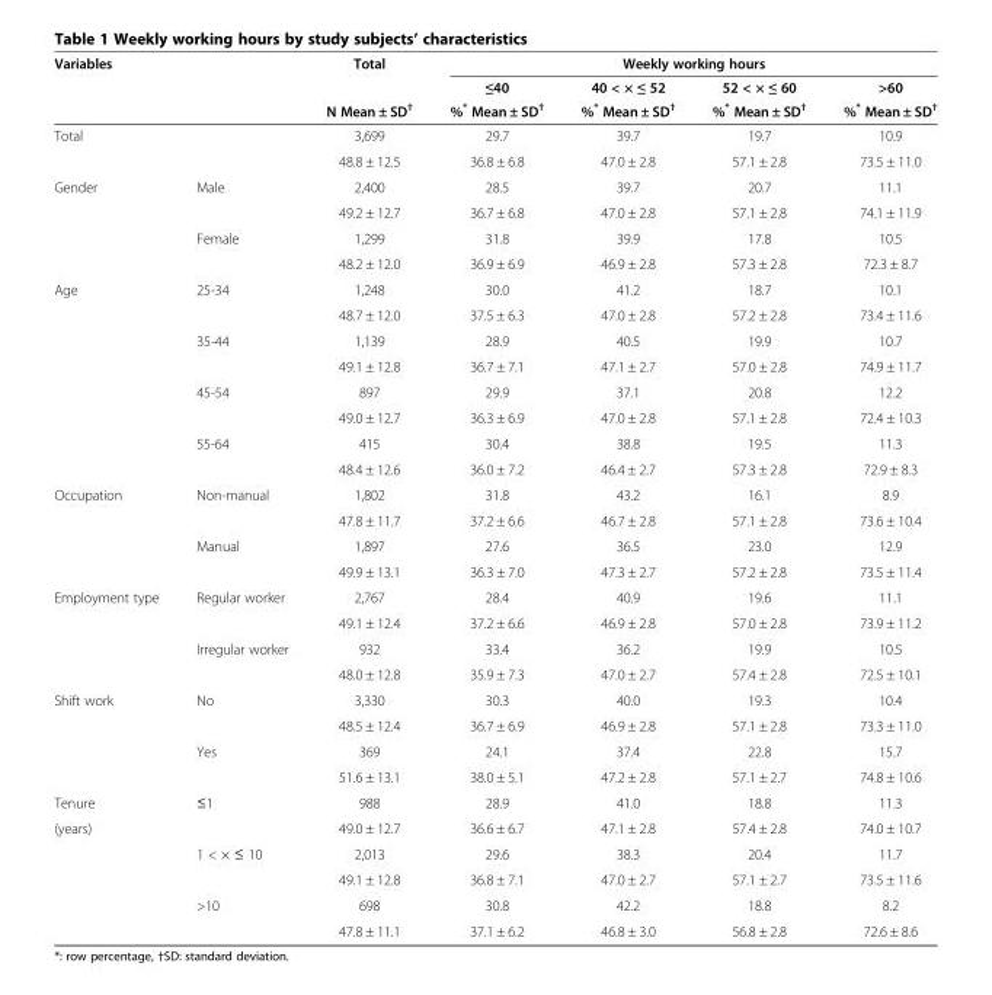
<table><thead><tr><td rowspan="3">Variables</td><td rowspan="3"></td><td rowspan="3">Total N Mean ± SD†</td><td colspan="4">Weekly working hours</td></tr><tr><td rowspan="2">≤40 %* Mean ± SD<sup>†</sup></td><td rowspan="2">40 &lt; × ≤ 52 %* Mean ± SD<sup>†</sup></td><td rowspan="2">52 &lt; × ≤ 60 %* Mean ± SD<sup>†</sup></td><td rowspan="2">&gt;60 %* Mean ± SD<sup>†</sup></td></tr><tr></tr></thead><tbody><tr><td rowspan="2">Total</td><td></td><td>3,699</td><td>29.7</td><td>39.7</td><td>19.7</td><td>10.9</td></tr><tr><td></td><td>48.8 ± 12.5</td><td>36.8 ± 6.8</td><td>47.0 ± 2.8</td><td>57.1 ± 2.8</td><td>73.5 ± 11.0</td></tr><tr><td rowspan="4">Gender</td><td>Male</td><td>2,400</td><td>28.5</td><td>39.7</td><td>20.7</td><td>11.1</td></tr><tr><td></td><td>49.2 ± 12.7</td><td>36.7 ± 6.8</td><td>47.0 ± 2.8</td><td>57.1 ± 2.8</td><td>74.1 ± 11.9</td></tr><tr><td>Female</td><td>1,299</td><td>31.8</td><td>39.9</td><td>17.8</td><td>10.5</td></tr><tr><td></td><td>48.2 ± 12.0</td><td>36.9 ± 6.9</td><td>46.9 ± 2.8</td><td>57.3 ± 2.8</td><td>72.3 ± 8.7</td></tr><tr><td rowspan="8">Age</td><td>25-34</td><td>1,248</td><td>30.0</td><td>41.2</td><td>18.7</td><td>10.1</td></tr><tr><td></td><td>48.7 ± 12.0</td><td>37.5 ± 6.3</td><td>47.0 ± 2.8</td><td>57.2 ± 2.8</td><td>73.4 ± 11.6</td></tr><tr><td>35-44</td><td>1,139</td><td>28.9</td><td>40.5</td><td>19.9</td><td>10.7</td></tr><tr><td></td><td>49.1 ± 12.8</td><td>36.7 ± 7.1</td><td>47.1 ± 2.7</td><td>57.0 ± 2.8</td><td>74.9 ± 11.7</td></tr><tr><td>45-54</td><td>897</td><td>29.9</td><td>37.1</td><td>20.8</td><td>12.2</td></tr><tr><td></td><td>49.0 ± 12.7</td><td>36.3 ± 6.9</td><td>47.0 ± 2.8</td><td>57.1 ± 2.8</td><td>72.4 ± 10.3</td></tr><tr><td>55-64</td><td>415</td><td>30.4</td><td>38.8</td><td>19.5</td><td>11.3</td></tr><tr><td></td><td>48.4 ± 12.6</td><td>36.0 ± 7.2</td><td>46.4 ± 2.7</td><td>57.3 ± 2.8</td><td>72.9 ± 8.3</td></tr><tr><td rowspan="4">Occupation</td><td>Non-manual</td><td>1,802</td><td>31.8</td><td>43.2</td><td>16.1</td><td>8.9</td></tr><tr><td></td><td>47.8 ± 11.7</td><td>37.2 ± 6.6</td><td>46.7 ± 2.8</td><td>57.1 ± 2.8</td><td>73.6 ± 10.4</td></tr><tr><td>Manual</td><td>1,897</td><td>27.6</td><td>36.5</td><td>23.0</td><td>12.9</td></tr><tr><td></td><td>49.9 ± 13.1</td><td>36.3 ± 7.0</td><td>47.3 ± 2.7</td><td>57.2 ± 2.8</td><td>73.5 ± 11.4</td></tr><tr><td rowspan="4">Employment type</td><td>Regular worker</td><td>2,767</td><td>28.4</td><td>40.9</td><td>19.6</td><td>11.1</td></tr><tr><td></td><td>49.1 ± 12.4</td><td>37.2 ± 6.6</td><td>46.9 ± 2.8</td><td>57.0 ± 2.8</td><td>73.9 ± 11.2</td></tr><tr><td>Irregular worker</td><td>932</td><td>33.4</td><td>36.2</td><td>19.9</td><td>10.5</td></tr><tr><td></td><td>48.0 ± 12.8</td><td>35.9 ± 7.3</td><td>47.0 ± 2.7</td><td>57.4 ± 2.8</td><td>72.5 ± 10.1</td></tr><tr><td rowspan="4">Shift work</td><td>No</td><td>3,330</td><td>30.3</td><td>40.0</td><td>19.3</td><td>10.4</td></tr><tr><td></td><td>48.5 ± 12.4</td><td>36.7 ± 6.9</td><td>46.9 ± 2.8</td><td>57.1 ± 2.8</td><td>73.3 ± 11.0</td></tr><tr><td>Yes</td><td>369</td><td>24.1</td><td>37.4</td><td>22.8</td><td>15.7</td></tr><tr><td></td><td>51.6 ± 13.1</td><td>38.0 ± 5.1</td><td>47.2 ± 2.8</td><td>57.1 ± 2.7</td><td>74.8 ± 10.6</td></tr><tr><td>Tenure</td><td>≤1</td><td>988</td><td>28.9</td><td>41.0</td><td>18.8</td><td>11.3</td></tr><tr><td rowspan="5">(years)</td><td></td><td>49.0 ± 12.7</td><td>36.6 ± 6.7</td><td>47.1 ± 2.8</td><td>57.4 ± 2.8</td><td>74.0 ± 10.7</td></tr><tr><td>1 &lt; × ≤ 10</td><td>2,013</td><td>29.6</td><td>38.3</td><td>20.4</td><td>11.7</td></tr><tr><td></td><td>49.1 ± 12.8</td><td>36.8 ± 7.1</td><td>47.0 ± 2.7</td><td>57.1 ± 2.7</td><td>73.5 ± 11.6</td></tr><tr><td>&gt;10</td><td>698</td><td>30.8</td><td>42.2</td><td>18.8</td><td>8.2</td></tr><tr><td></td><td>47.8 ± 11.1</td><td>37.1 ± 6.2</td><td>46.8 ± 3.0</td><td>56.8 ± 2.8</td><td>72.6 ± 8.6</td></tr></tbody></table>